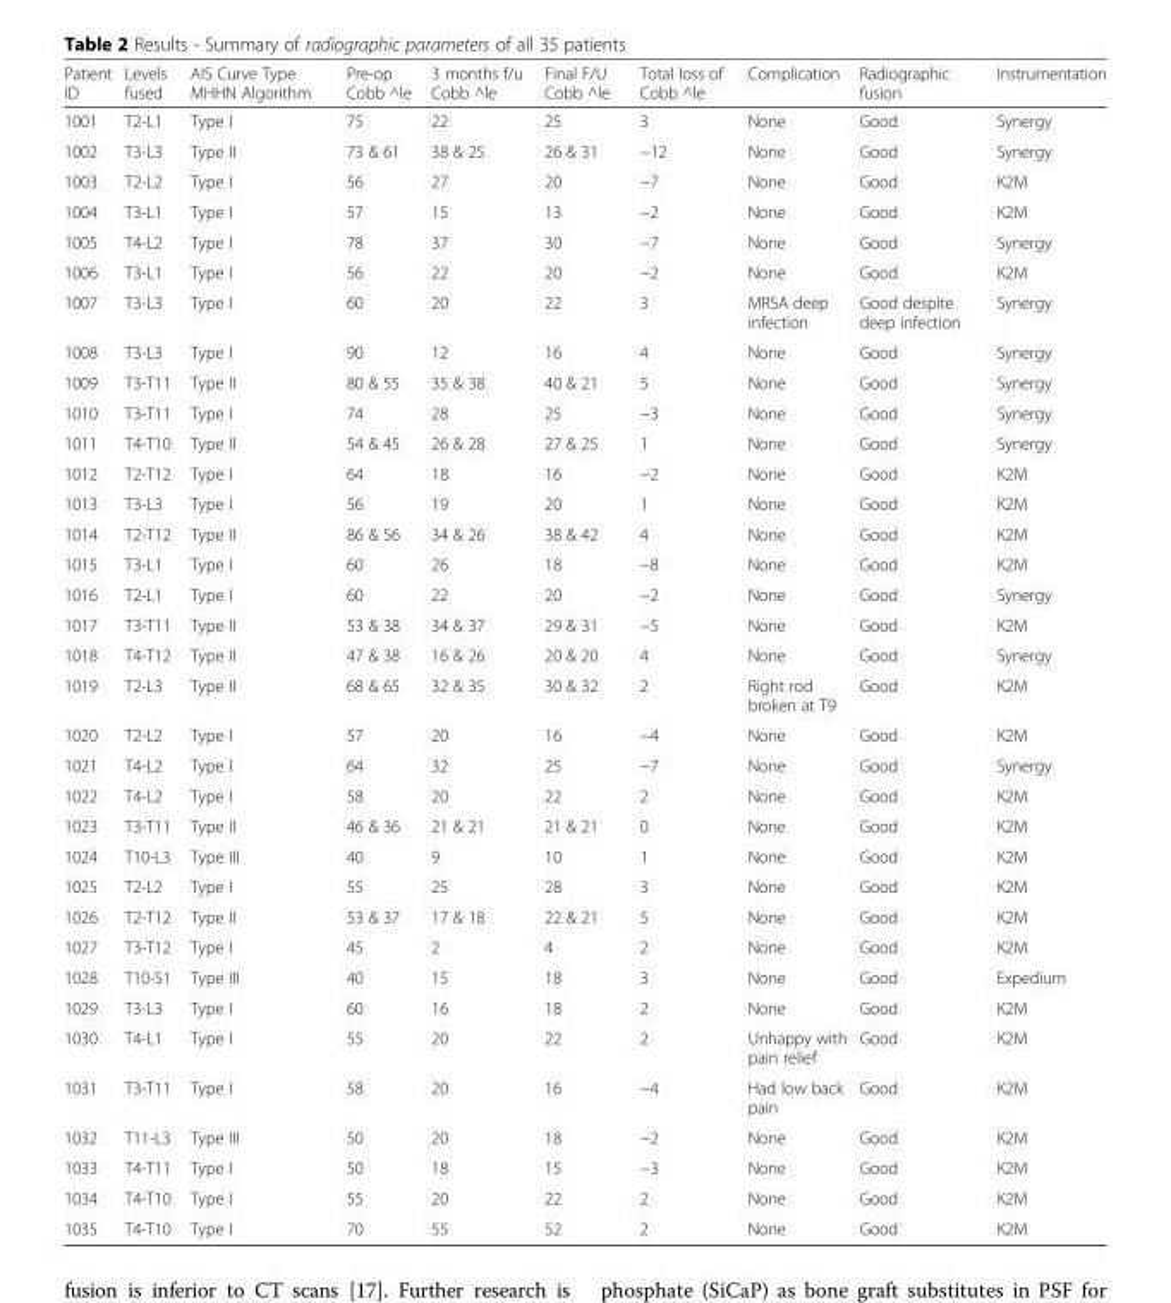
<table><thead><tr><td>Patient ID</td><td>Levels fused</td><td>AIS Curve Type MHHN Algorithm</td><td>Pre-op Cobb ^le</td><td>3 months f/u Cobb ^le</td><td>Final F/U Cobb ^le</td><td>Total loss of Cobb ^le</td><td>Complication</td><td>Radiographic fusion</td><td>Instrumentation</td></tr></thead><tbody><tr><td>1001</td><td>T2-L1</td><td>Type I</td><td>75</td><td>22</td><td>25</td><td>3</td><td>None</td><td>Good</td><td>Synergy</td></tr><tr><td>1002</td><td>T3-L3</td><td>Type II</td><td>73 &amp; 61</td><td>38 &amp; 25</td><td>26 &amp; 31</td><td>−12</td><td>None</td><td>Good</td><td>Synergy</td></tr><tr><td>1003</td><td>T2-L2</td><td>Type I</td><td>56</td><td>27</td><td>20</td><td>−7</td><td>None</td><td>Good</td><td>K2M</td></tr><tr><td>1004</td><td>T3-L1</td><td>Type I</td><td>57</td><td>15</td><td>13</td><td>−2</td><td>None</td><td>Good</td><td>K2M</td></tr><tr><td>1005</td><td>T4-L2</td><td>Type I</td><td>78</td><td>37</td><td>30</td><td>−7</td><td>None</td><td>Good</td><td>Synergy</td></tr><tr><td>1006</td><td>T3-L1</td><td>Type I</td><td>56</td><td>22</td><td>20</td><td>−2</td><td>None</td><td>Good</td><td>K2M</td></tr><tr><td>1007</td><td>T3-L3</td><td>Type I</td><td>60</td><td>20</td><td>22</td><td>3</td><td>MRSA deep infection</td><td>Good despite deep infection</td><td>Synergy</td></tr><tr><td>1008</td><td>T3-L3</td><td>Type I</td><td>90</td><td>12</td><td>16</td><td>4</td><td>None</td><td>Good</td><td>Synergy</td></tr><tr><td>1009</td><td>T3-T11</td><td>Type II</td><td>80 &amp; 55</td><td>35 &amp; 38</td><td>40 &amp; 21</td><td>5</td><td>None</td><td>Good</td><td>Synergy</td></tr><tr><td>1010</td><td>T3-T11</td><td>Type I</td><td>74</td><td>28</td><td>25</td><td>−3</td><td>None</td><td>Good</td><td>Synergy</td></tr><tr><td>1011</td><td>T4-T10</td><td>Type II</td><td>54 &amp; 45</td><td>26 &amp; 28</td><td>27 &amp; 25</td><td>1</td><td>None</td><td>Good</td><td>Synergy</td></tr><tr><td>1012</td><td>T2-T12</td><td>Type I</td><td>64</td><td>18</td><td>16</td><td>−2</td><td>None</td><td>Good</td><td>K2M</td></tr><tr><td>1013</td><td>T3-L3</td><td>Type I</td><td>56</td><td>19</td><td>20</td><td>1</td><td>None</td><td>Good</td><td>K2M</td></tr><tr><td>1014</td><td>T2-T12</td><td>Type II</td><td>86 &amp; 56</td><td>34 &amp; 26</td><td>38 &amp; 42</td><td>4</td><td>None</td><td>Good</td><td>K2M</td></tr><tr><td>1015</td><td>T3-L1</td><td>Type I</td><td>60</td><td>26</td><td>18</td><td>−8</td><td>None</td><td>Good</td><td>K2M</td></tr><tr><td>1016</td><td>T2-L1</td><td>Type I</td><td>60</td><td>22</td><td>20</td><td>−2</td><td>None</td><td>Good</td><td>Synergy</td></tr><tr><td>1017</td><td>T3-T11</td><td>Type II</td><td>53 &amp; 38</td><td>34 &amp; 37</td><td>29 &amp; 31</td><td>−5</td><td>None</td><td>Good</td><td>K2M</td></tr><tr><td>1018</td><td>T4-T12</td><td>Type II</td><td>47 &amp; 38</td><td>16 &amp; 26</td><td>20 &amp; 20</td><td>4</td><td>None</td><td>Good</td><td>Synergy</td></tr><tr><td>1019</td><td>T2-L3</td><td>Type II</td><td>68 &amp; 65</td><td>32 &amp; 35</td><td>30 &amp; 32</td><td>2</td><td>Right rod broken at T9</td><td>Good</td><td>K2M</td></tr><tr><td>1020</td><td>T2-L2</td><td>Type I</td><td>57</td><td>20</td><td>16</td><td>−4</td><td>None</td><td>Good</td><td>K2M</td></tr><tr><td>1021</td><td>T4-L2</td><td>Type I</td><td>64</td><td>32</td><td>25</td><td>−7</td><td>None</td><td>Good</td><td>Synergy</td></tr><tr><td>1022</td><td>T4-L2</td><td>Type I</td><td>58</td><td>20</td><td>22</td><td>2</td><td>None</td><td>Good</td><td>K2M</td></tr><tr><td>1023</td><td>T3-T11</td><td>Type II</td><td>46 &amp; 36</td><td>21 &amp; 21</td><td>21 &amp; 21</td><td>0</td><td>None</td><td>Good</td><td>K2M</td></tr><tr><td>1024</td><td>T10-L3</td><td>Type III</td><td>40</td><td>9</td><td>10</td><td>1</td><td>None</td><td>Good</td><td>K2M</td></tr><tr><td>1025</td><td>T2-L2</td><td>Type I</td><td>55</td><td>25</td><td>28</td><td>3</td><td>None</td><td>Good</td><td>K2M</td></tr><tr><td>1026</td><td>T2-T12</td><td>Type II</td><td>53 &amp; 37</td><td>17 &amp; 18</td><td>22 &amp; 21</td><td>5</td><td>None</td><td>Good</td><td>K2M</td></tr><tr><td>1027</td><td>T3-T12</td><td>Type I</td><td>45</td><td>2</td><td>4</td><td>2</td><td>None</td><td>Good</td><td>K2M</td></tr><tr><td>1028</td><td>T10-S1</td><td>Type III</td><td>40</td><td>15</td><td>18</td><td>3</td><td>None</td><td>Good</td><td>Expedium</td></tr><tr><td>1029</td><td>T3-L3</td><td>Type I</td><td>60</td><td>16</td><td>18</td><td>2</td><td>None</td><td>Good</td><td>K2M</td></tr><tr><td>1030</td><td>T4-L1</td><td>Type I</td><td>55</td><td>20</td><td>22</td><td>2</td><td>Unhappy with pain relief</td><td>Good</td><td>K2M</td></tr><tr><td>1031</td><td>T3-T11</td><td>Type I</td><td>58</td><td>20</td><td>16</td><td>−4</td><td>Had low back pain</td><td>Good</td><td>K2M</td></tr><tr><td>1032</td><td>T11-L3</td><td>Type III</td><td>50</td><td>20</td><td>18</td><td>−2</td><td>None</td><td>Good</td><td>K2M</td></tr><tr><td>1033</td><td>T4-T11</td><td>Type I</td><td>50</td><td>18</td><td>15</td><td>−3</td><td>None</td><td>Good</td><td>K2M</td></tr><tr><td>1034</td><td>T4-T10</td><td>Type I</td><td>55</td><td>20</td><td>22</td><td>2</td><td>None</td><td>Good</td><td>K2M</td></tr><tr><td>1035</td><td>T4-T10</td><td>Type I</td><td>70</td><td>55</td><td>52</td><td>2</td><td>None</td><td>Good</td><td>K2M</td></tr></tbody></table>